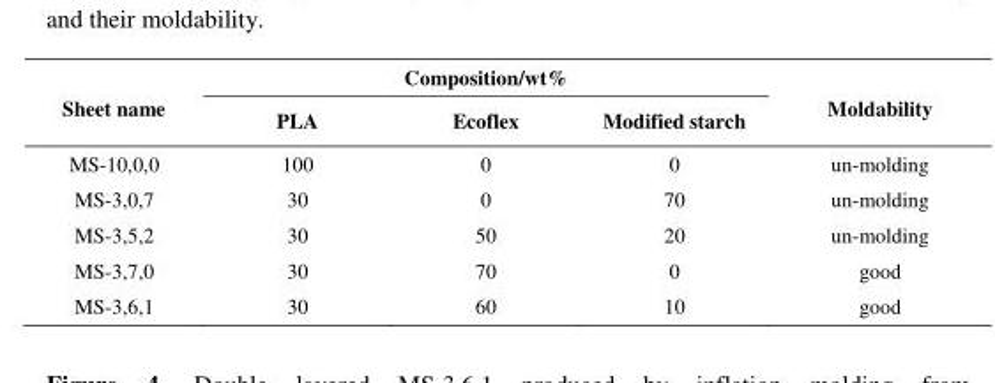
<table><thead><tr><td rowspan="2">Sheet name</td><td colspan="3">Composition/wt%</td><td rowspan="2">Moldability</td></tr><tr><td>PLA</td><td>Ecoflex</td><td>Modified starch</td></tr></thead><tbody><tr><td>MS-10,0,0</td><td>100</td><td>0</td><td>0</td><td>un-molding</td></tr><tr><td>MS-3,0,7</td><td>30</td><td>0</td><td>70</td><td>un-molding</td></tr><tr><td>MS-3,5,2</td><td>30</td><td>50</td><td>20</td><td>un-molding</td></tr><tr><td>MS-3,7,0</td><td>30</td><td>70</td><td>0</td><td>good</td></tr><tr><td>MS-3,6,1</td><td>30</td><td>60</td><td>10</td><td>good</td></tr></tbody></table>